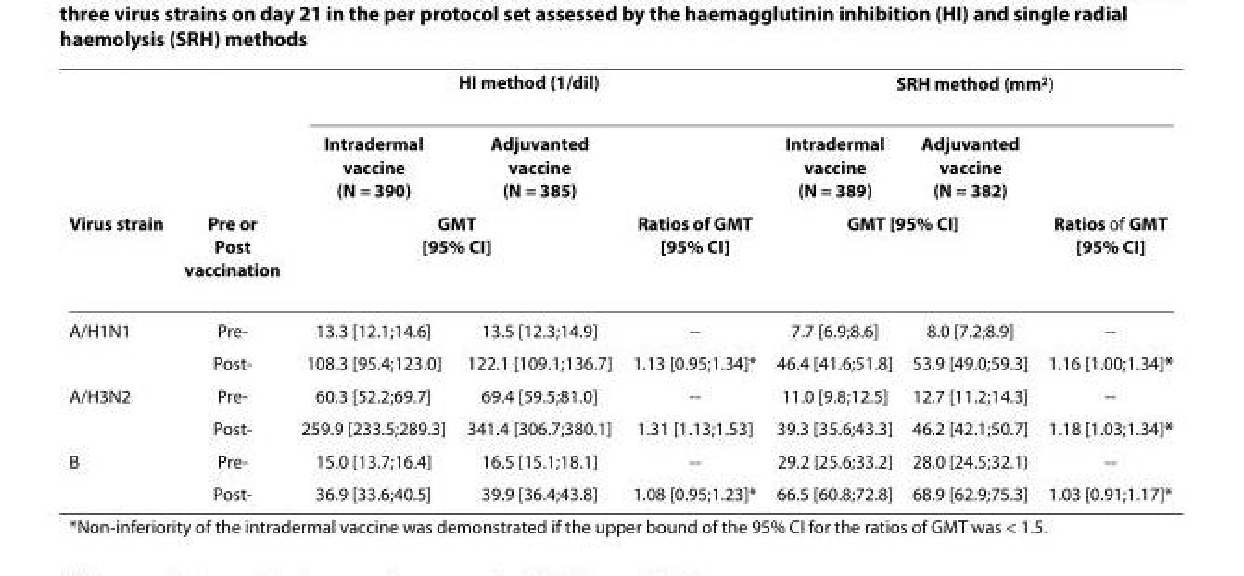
<table><thead><tr><td rowspan="3">Virus strain</td><td rowspan="3">Pre or Post vaccination</td><td colspan="3">HI method (1/dil)</td><td colspan="3">SRH method (mm<sup>2</sup>)</td></tr><tr><td>Intradermal vaccine (N = 390)</td><td>Adjuvanted vaccine (N = 385)</td><td rowspan="2">Ratios of GMT [95% CI]</td><td>Intradermal vaccine (N = 389)</td><td>Adjuvanted vaccine (N = 382)</td><td rowspan="2">Ratios of GMT [95% CI]</td></tr><tr><td colspan="2">GMT [95% CI]</td><td colspan="2">GMT [95% CI]</td></tr></thead><tbody><tr><td rowspan="2">A/H1N1</td><td>Pre-</td><td>13.3 [12.1;14.6]</td><td>13.5 [12.3;14.9]</td><td>--</td><td>7.7 [6.9;8.6]</td><td>8.0 [7.2;8.9]</td><td>--</td></tr><tr><td>Post-</td><td>108.3 [95.4;123.0]</td><td>122.1 [109.1;136.7]</td><td>1.13 [0.95;1.34]*</td><td>46.4 [41.6;51.8]</td><td>53.9 [49.0;59.3]</td><td>1.16 [1.00;1.34]*</td></tr><tr><td rowspan="2">A/H3N2</td><td>Pre-</td><td>60.3 [52.2;69.7]</td><td>69.4 [59.5;81.0]</td><td>--</td><td>11.0 [9.8;12.5]</td><td>12.7 [11.2;14.3]</td><td>--</td></tr><tr><td>Post-</td><td>259.9 [233.5;289.3]</td><td>341.4 [306.7;380.1]</td><td>1.31 [1.13;1.53]</td><td>39.3 [35.6;43.3]</td><td>46.2 [42.1;50.7]</td><td>1.18 [1.03;1.34]*</td></tr><tr><td rowspan="2">B</td><td>Pre-</td><td>15.0 [13.7;16.4]</td><td>16.5 [15.1;18.1]</td><td>--</td><td>29.2 [25.6;33.2]</td><td>28.0 [24.5;32.1)</td><td>--</td></tr><tr><td>Post-</td><td>36.9 [33.6;40.5]</td><td>39.9 [36.4;43.8]</td><td>1.08 [0.95;1.23]*</td><td>66.5 [60.8;72.8]</td><td>68.9 [62.9;75.3]</td><td>1.03 [0.91;1.17]*</td></tr></tbody></table>